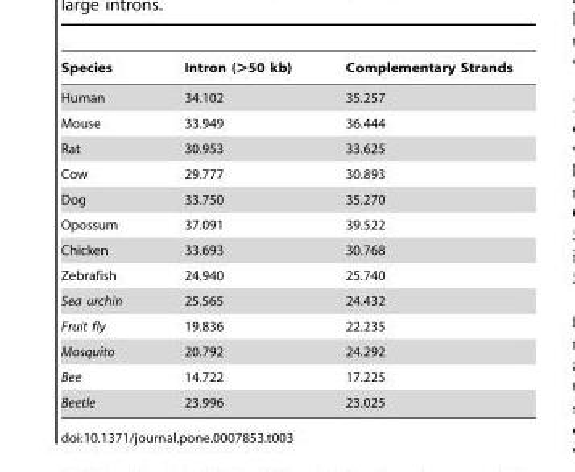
<table><thead><tr><td>Species</td><td>Intron (&gt;50 kb)</td><td>Complementary Strands</td></tr></thead><tbody><tr><td>Human</td><td>34.102</td><td>35.257</td></tr><tr><td>Mouse</td><td>33.949</td><td>36.444</td></tr><tr><td>Rat</td><td>30.953</td><td>33.625</td></tr><tr><td>Cow</td><td>29.777</td><td>30.893</td></tr><tr><td>Dog</td><td>33.750</td><td>35.270</td></tr><tr><td>Opossum</td><td>37.091</td><td>39.522</td></tr><tr><td>Chicken</td><td>33.693</td><td>30.768</td></tr><tr><td>Zebrafish</td><td>24.940</td><td>25.740</td></tr><tr><td>Sea urchin</td><td>25.565</td><td>24.432</td></tr><tr><td>Fruit fly</td><td>19.836</td><td>22.235</td></tr><tr><td>Mosquito</td><td>20.792</td><td>24.292</td></tr><tr><td>Bee</td><td>14.722</td><td>17.225</td></tr><tr><td>Beetle</td><td>23.996</td><td>23.025</td></tr></tbody></table>